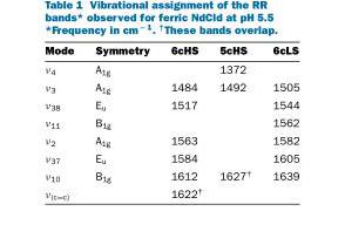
<table><thead><tr><td>Mode</td><td>Symmetry</td><td>6cHS</td><td>5cHS</td><td>6cLS</td></tr></thead><tbody><tr><td>ν<sub>4</sub></td><td>A<sub>1g</sub></td><td></td><td colspan="2">1372</td></tr><tr><td>ν<sub>3</sub></td><td>A<sub>1g</sub></td><td>1484</td><td>1492</td><td>1505</td></tr><tr><td>ν<sub>38</sub></td><td>E<sub>u</sub></td><td>1517</td><td></td><td>1544</td></tr><tr><td>ν<sub>11</sub></td><td>B<sub>1g</sub></td><td></td><td></td><td>1562</td></tr><tr><td>ν<sub>2</sub></td><td>A<sub>1g</sub></td><td>1563</td><td></td><td>1582</td></tr><tr><td>ν<sub>37</sub></td><td>E<sub>u</sub></td><td>1584</td><td></td><td>1605</td></tr><tr><td>ν<sub>10</sub></td><td>B<sub>1g</sub></td><td>1612</td><td>1627<sup>†</sup></td><td>1639</td></tr><tr><td>ν<sub>(c=c)</sub></td><td></td><td colspan="3">1622<sup>†</sup></td></tr></tbody></table>